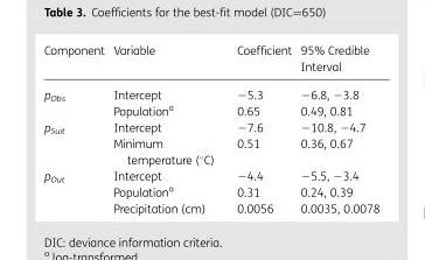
<table><thead><tr><td>Component</td><td>Variable</td><td>Coefficient</td><td>95% Credible Interval</td></tr></thead><tbody><tr><td rowspan="2">p<sub>Obs</sub></td><td>Intercept</td><td>−5.3</td><td>−6.8, −3.8</td></tr><tr><td>Population<sup>a</sup></td><td>0.65</td><td>0.49, 0.81</td></tr><tr><td rowspan="2">p<sub>Suit</sub></td><td>Intercept</td><td>−7.6</td><td>−10.8, −4.7</td></tr><tr><td>Minimum temperature (°C)</td><td>0.51</td><td>0.36, 0.67</td></tr><tr><td rowspan="3">p<sub>Out</sub></td><td>Intercept</td><td>−4.4</td><td>−5.5, −3.4</td></tr><tr><td>Population<sup>a</sup></td><td>0.31</td><td>0.24, 0.39</td></tr><tr><td>Precipitation (cm)</td><td>0.0056</td><td>0.0035, 0.0078</td></tr></tbody></table>